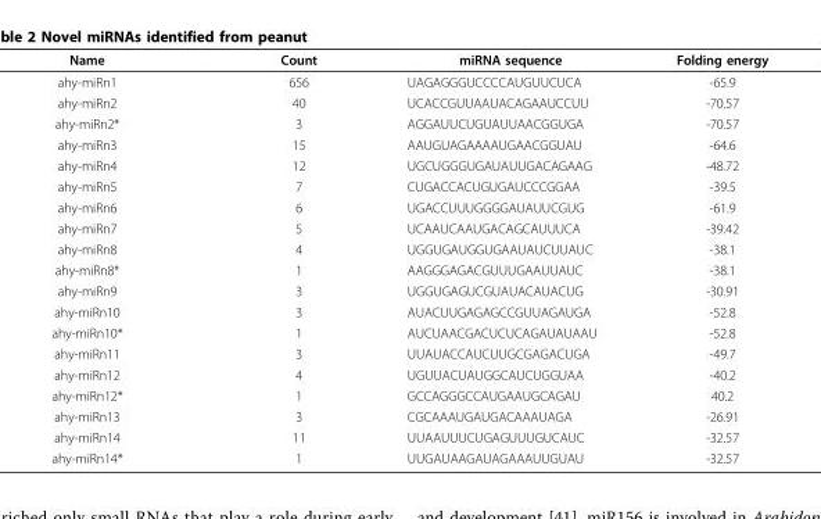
<table><thead><tr><td>Name</td><td>Count</td><td>miRNA sequence</td><td>Folding energy</td></tr></thead><tbody><tr><td>ahy-miRn1</td><td>656</td><td>UAGAGGGUCCCCAUGUUCUCA</td><td>-65.9</td></tr><tr><td>ahy-miRn2</td><td>40</td><td>UCACCGUUAAUACAGAAUCCUU</td><td>-70.57</td></tr><tr><td>ahy-miRn2*</td><td>3</td><td>AGGAUUCUGUAUUAACGGUGA</td><td>-70.57</td></tr><tr><td>ahy-miRn3</td><td>15</td><td>AAUGUAGAAAAUGAACGGUAU</td><td>-64.6</td></tr><tr><td>ahy-miRn4</td><td>12</td><td>UGCUGGGUGAUAUUGACAGAAG</td><td>-48.72</td></tr><tr><td>ahy-miRn5</td><td>7</td><td>CUGACCACUGUGAUCCCGGAA</td><td>-39.5</td></tr><tr><td>ahy-miRn6</td><td>6</td><td>UGACCUUUGGGGAUAUUCGUG</td><td>-61.9</td></tr><tr><td>ahy-miRn7</td><td>5</td><td>UCAAUCAAUGACAGCAUUUCA</td><td>-39.42</td></tr><tr><td>ahy-miRn8</td><td>4</td><td>UGGUGAUGGUGAAUAUCUUAUC</td><td>-38.1</td></tr><tr><td>ahy-miRn8*</td><td>1</td><td>AAGGGAGACGUUUGAAUUAUC</td><td>-38.1</td></tr><tr><td>ahy-miRn9</td><td>3</td><td>UGGUGAGUCGUAUACAUACUG</td><td>-30.91</td></tr><tr><td>ahy-miRn10</td><td>3</td><td>AUACUUGAGAGCCGUUAGAUGA</td><td>-52.8</td></tr><tr><td>ahy-miRn10*</td><td>1</td><td>AUCUAACGACUCUCAGAUAUAAU</td><td>-52.8</td></tr><tr><td>ahy-miRn11</td><td>3</td><td>UUAUACCAUCUUGCGAGACUGA</td><td>-49.7</td></tr><tr><td>ahy-miRn12</td><td>4</td><td>UGUUACUAUGGCAUCUGGUAA</td><td>-40.2</td></tr><tr><td>ahy-miRn12*</td><td>1</td><td>GCCAGGGCCAUGAAUGCAGAU</td><td>40.2</td></tr><tr><td>ahy-miRn13</td><td>3</td><td>CGCAAAUGAUGACAAAUAGA</td><td>-26.91</td></tr><tr><td>ahy-miRn14</td><td>11</td><td>UUAAUUUCUGAGUUUGUCAUC</td><td>-32.57</td></tr><tr><td>ahy-miRn14*</td><td>1</td><td>UUGAUAAGAUAGAAAUUGUAU</td><td>-32.57</td></tr></tbody></table>